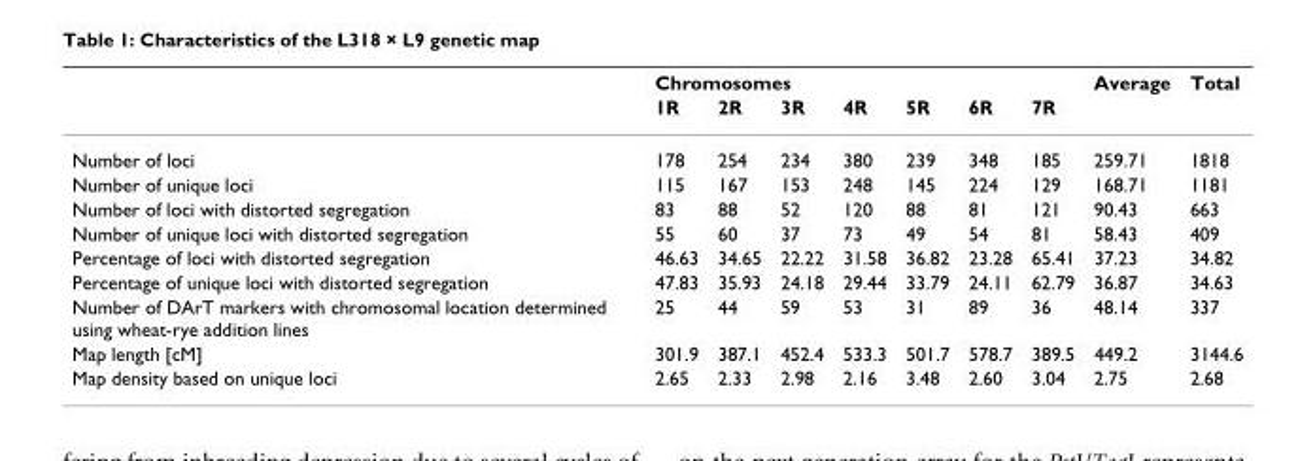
<table><thead><tr><td rowspan="2"></td><td colspan="7">Chromosomes</td><td rowspan="2">Average</td><td rowspan="2">Total</td></tr><tr><td>1R</td><td>2R</td><td>3R</td><td>4R</td><td>5R</td><td>6R</td><td>7R</td></tr></thead><tbody><tr><td>Number of loci</td><td>178</td><td>254</td><td>234</td><td>380</td><td>239</td><td>348</td><td>185</td><td>259.71</td><td>1818</td></tr><tr><td>Number of unique loci</td><td>115</td><td>167</td><td>153</td><td>248</td><td>145</td><td>224</td><td>129</td><td>168.71</td><td>1181</td></tr><tr><td>Number of loci with distorted segregation</td><td>83</td><td>88</td><td>52</td><td>120</td><td>88</td><td>81</td><td>121</td><td>90.43</td><td>663</td></tr><tr><td>Number of unique loci with distorted segregation</td><td>55</td><td>60</td><td>37</td><td>73</td><td>49</td><td>54</td><td>81</td><td>58.43</td><td>409</td></tr><tr><td>Percentage of loci with distorted segregation</td><td>46.63</td><td>34.65</td><td>22.22</td><td>31.58</td><td>36.82</td><td>23.28</td><td>65.41</td><td>37.23</td><td>34.82</td></tr><tr><td>Percentage of unique loci with distorted segregation</td><td>47.83</td><td>35.93</td><td>24.18</td><td>29.44</td><td>33.79</td><td>24.11</td><td>62.79</td><td>36.87</td><td>34.63</td></tr><tr><td>Number of DArT markers with chromosomal location determined using wheat-rye addition lines</td><td>25</td><td>44</td><td>59</td><td>53</td><td>31</td><td>89</td><td>36</td><td>48.14</td><td>337</td></tr><tr><td>Map length [cM]</td><td>301.9</td><td>387.1</td><td>452.4</td><td>533.3</td><td>501.7</td><td>578.7</td><td>389.5</td><td>449.2</td><td>3144.6</td></tr><tr><td>Map density based on unique loci</td><td>2.65</td><td>2.33</td><td>2.98</td><td>2.16</td><td>3.48</td><td>2.60</td><td>3.04</td><td>2.75</td><td>2.68</td></tr></tbody></table>